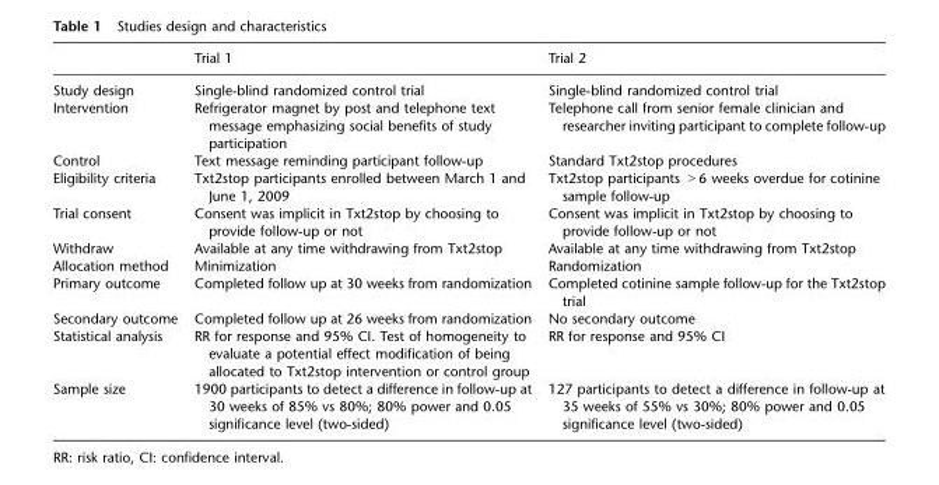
<table><thead><tr><td></td><td>Trial 1</td><td>Trial 2</td></tr></thead><tbody><tr><td>Study design</td><td>Single-blind randomized control trial</td><td>Single-blind randomized control trial</td></tr><tr><td>Intervention</td><td>Refrigerator magnet by post and telephone text message emphasizing social benefits of study participation</td><td>Telephone call from senior female clinician and researcher inviting participant to complete follow-up</td></tr><tr><td>Control</td><td>Text message reminding participant follow-up</td><td>Standard Txt2stop procedures</td></tr><tr><td>Eligibility criteria</td><td>Txt2stop participants enrolled between March 1 and June 1, 2009</td><td>Txt2stop participants &gt;6 weeks overdue for cotinine sample follow-up</td></tr><tr><td>Trial consent</td><td>Consent was implicit in Txt2stop by choosing to provide follow-up or not</td><td>Consent was implicit in Txt2stop by choosing to provide follow-up or not</td></tr><tr><td>Withdraw</td><td>Available at any time withdrawing from Txt2stop</td><td>Available at any time withdrawing from Txt2stop</td></tr><tr><td>Allocation method</td><td>Minimization</td><td>Randomization</td></tr><tr><td>Primary outcome</td><td>Completed follow up at 30 weeks from randomization</td><td>Completed cotinine sample follow-up for the Txt2stop trial</td></tr><tr><td>Secondary outcome</td><td>Completed follow up at 26 weeks from randomization</td><td>No secondary outcome</td></tr><tr><td>Statistical analysis</td><td>RR for response and 95% CI. Test of homogeneity to evaluate a potential effect modification of being allocated to Txt2stop intervention or control group</td><td>RR for response and 95% CI</td></tr><tr><td>Sample size</td><td>1900 participants to detect a difference in follow-up at 30 weeks of 85% vs 80%; 80% power and 0.05 significance level (two-sided)</td><td>127 participants to detect a difference in follow-up at 35 weeks of 55% vs 30%; 80% power and 0.05 significance level (two-sided)</td></tr></tbody></table>